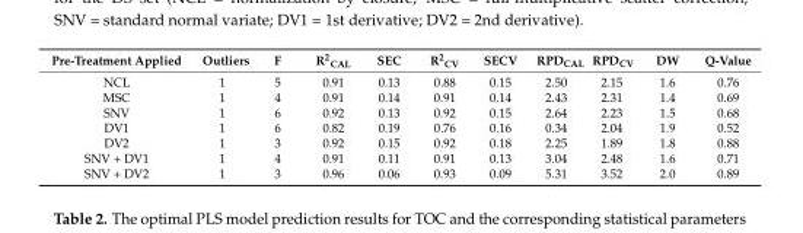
<table><thead><tr><td>Pre-Treatment Applied</td><td>Outliers</td><td>F</td><td>R<sup>2</sup><sub>CAL</sub></td><td>SEC</td><td>R<sup>2</sup><sub>CV</sub></td><td>SECV</td><td>RPD<sub>CAL</sub></td><td>RPD<sub>CV</sub></td><td>DW</td><td>Q-Value</td></tr></thead><tbody><tr><td>NCL</td><td>1</td><td>5</td><td>0.91</td><td>0.13</td><td>0.88</td><td>0.15</td><td>2.50</td><td>2.15</td><td>1.6</td><td>0.76</td></tr><tr><td>MSC</td><td>1</td><td>4</td><td>0.91</td><td>0.14</td><td>0.91</td><td>0.14</td><td>2.43</td><td>2.31</td><td>1.4</td><td>0.69</td></tr><tr><td>SNV</td><td>1</td><td>6</td><td>0.92</td><td>0.13</td><td>0.92</td><td>0.15</td><td>2.64</td><td>2.23</td><td>1.5</td><td>0.68</td></tr><tr><td>DV1</td><td>1</td><td>6</td><td>0.82</td><td>0.19</td><td>0.76</td><td>0.16</td><td>0.34</td><td>2.04</td><td>1.9</td><td>0.52</td></tr><tr><td>DV2</td><td>1</td><td>3</td><td>0.92</td><td>0.15</td><td>0.92</td><td>0.18</td><td>2.25</td><td>1.89</td><td>1.8</td><td>0.88</td></tr><tr><td>SNV + DV1</td><td>1</td><td>4</td><td>0.91</td><td>0.11</td><td>0.91</td><td>0.13</td><td>3.04</td><td>2.48</td><td>1.6</td><td>0.71</td></tr><tr><td>SNV + DV2</td><td>1</td><td>3</td><td>0.96</td><td>0.06</td><td>0.93</td><td>0.09</td><td>5.31</td><td>3.52</td><td>2.0</td><td>0.89</td></tr></tbody></table>